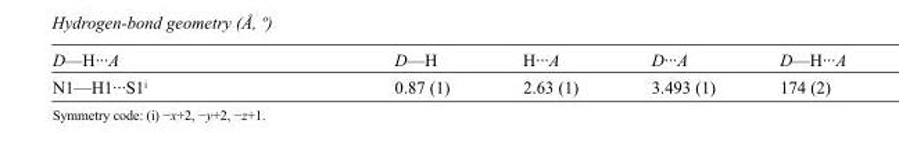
<table><tbody><tr><td>D—H···A</td><td>D—H</td><td>H···A</td><td>D···A</td><td>D—H···A</td></tr><tr><td>N1—H1···S1<sup>i</sup></td><td>0.87 (1)</td><td>2.63 (1)</td><td>3.493 (1)</td><td>174 (2)</td></tr></tbody></table>